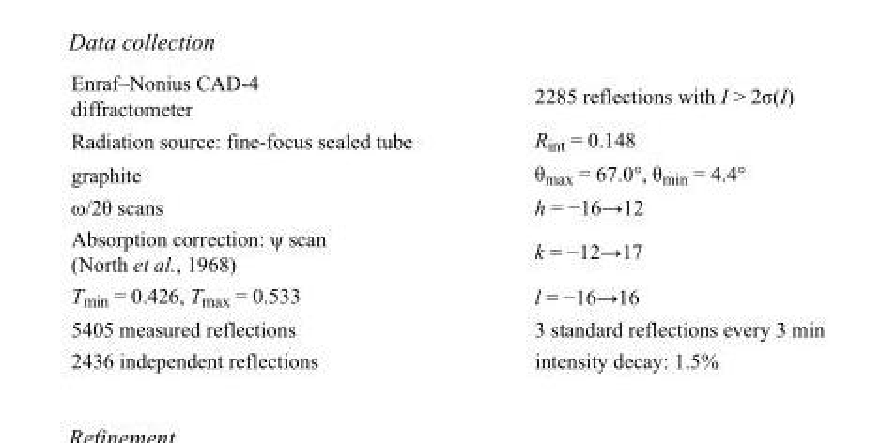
<table><tbody><tr><td>Enraf–Nonius CAD-4 diffractometer</td><td>2285 reflections with I &gt; 2σ(I)</td></tr><tr><td>Radiation source: fine-focus sealed tube</td><td>R<sub>int</sub> = 0.148</td></tr><tr><td>graphite</td><td>θ<sub>max</sub> = 67.0°, θ<sub>min</sub> = 4.4°</td></tr><tr><td>ω/2θ scans</td><td>h = −16→12</td></tr><tr><td>Absorption correction: ψ scan (North et al., 1968)</td><td>k = −12→17</td></tr><tr><td>T<sub>min</sub> = 0.426, T<sub>max</sub> = 0.533</td><td>l = −16→16</td></tr><tr><td>5405 measured reflections</td><td>3 standard reflections every 3 min</td></tr><tr><td>2436 independent reflections</td><td>intensity decay: 1.5%</td></tr></tbody></table>